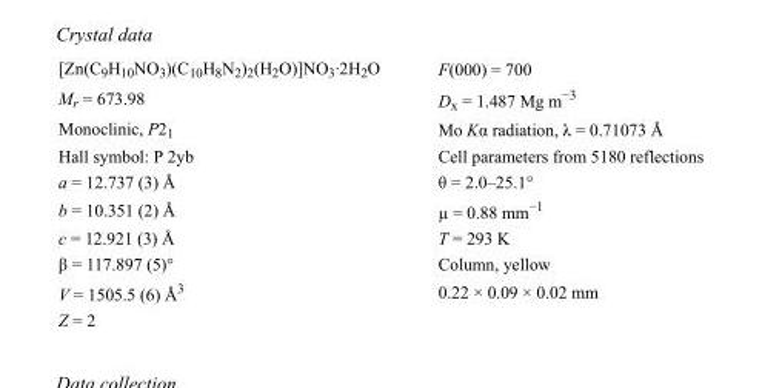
<table><tbody><tr><td>[Zn(C<sub>9</sub>H<sub>10</sub>NO<sub>3</sub>)(C<sub>10</sub>H<sub>8</sub>N<sub>2</sub>)<sub>2</sub>(H<sub>2</sub>O)]NO<sub>3</sub>·2H<sub>2</sub>O</td><td>F(000) = 700</td></tr><tr><td>M<sub>r</sub> = 673.98</td><td>D<sub>x</sub> = 1.487 Mg m<sup>−3</sup></td></tr><tr><td>Monoclinic, P2<sub>1</sub></td><td>Mo Kα radiation, λ = 0.71073 Å</td></tr><tr><td>Hall symbol: P 2yb</td><td>Cell parameters from 5180 reflections</td></tr><tr><td>a = 12.737 (3) Å</td><td>θ = 2.0–25.1°</td></tr><tr><td>b = 10.351 (2) Å</td><td>µ = 0.88 mm<sup>−1</sup></td></tr><tr><td>c = 12.921 (3) Å</td><td>T = 293 K</td></tr><tr><td>β = 117.897 (5)°</td><td>Column, yellow</td></tr><tr><td>V = 1505.5 (6) Å<sup>3</sup></td><td>0.22 × 0.09 × 0.02 mm</td></tr><tr><td>Z = 2</td><td></td></tr></tbody></table>